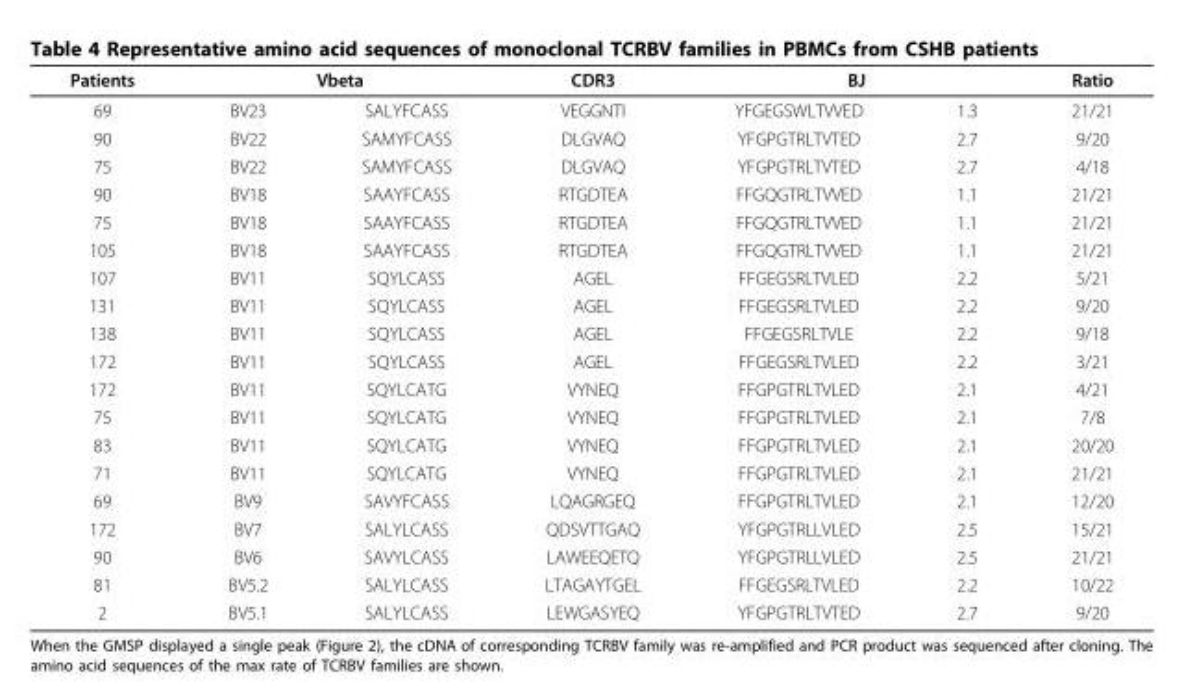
<table><thead><tr><td rowspan="2">Patients 69</td><td colspan="2">Vbeta</td><td rowspan="2">CDR3 VEGGNTI</td><td colspan="2">BJ</td><td rowspan="2">Ratio 21/21</td></tr><tr><td>BV23</td><td>SALYFCASS</td><td>YFGEGSWLTVVED</td><td>1.3</td></tr></thead><tbody><tr><td>90</td><td>BV22</td><td>SAMYFCASS</td><td>DLGVAQ</td><td>YFGPGTRLTVTED</td><td>2.7</td><td>9/20</td></tr><tr><td>75</td><td>BV22</td><td>SAMYFCASS</td><td>DLGVAQ</td><td>YFGPGTRLTVTED</td><td>2.7</td><td>4/18</td></tr><tr><td>90</td><td>BV18</td><td>SAAYFCASS</td><td>RTGDTEA</td><td>FFGQGTRLTVVED</td><td>1.1</td><td>21/21</td></tr><tr><td>75</td><td>BV18</td><td>SAAYFCASS</td><td>RTGDTEA</td><td>FFGQGTRLTVVED</td><td>1.1</td><td>21/21</td></tr><tr><td>105</td><td>BV18</td><td>SAAYFCASS</td><td>RTGDTEA</td><td>FFGQGTRLTVVED</td><td>1.1</td><td>21/21</td></tr><tr><td>107</td><td>BV11</td><td>SQYLCASS</td><td>AGEL</td><td>FFGEGSRLTVLED</td><td>2.2</td><td>5/21</td></tr><tr><td>131</td><td>BV11</td><td>SQYLCASS</td><td>AGEL</td><td>FFGEGSRLTVLED</td><td>2.2</td><td>9/20</td></tr><tr><td>138</td><td>BV11</td><td>SQYLCASS</td><td>AGEL</td><td>FFGEGSRLTVLE</td><td>2.2</td><td>9/18</td></tr><tr><td>172</td><td>BV11</td><td>SQYLCASS</td><td>AGEL</td><td>FFGEGSRLTVLED</td><td>2.2</td><td>3/21</td></tr><tr><td>172</td><td>BV11</td><td>SQYLCATG</td><td>VYNEQ</td><td>FFGPGTRLTVLED</td><td>2.1</td><td>4/21</td></tr><tr><td>75</td><td>BV11</td><td>SQYLCATG</td><td>VYNEQ</td><td>FFGPGTRLTVLED</td><td>2.1</td><td>7/8</td></tr><tr><td>83</td><td>BV11</td><td>SQYLCATG</td><td>VYNEQ</td><td>FFGPGTRLTVLED</td><td>2.1</td><td>20/20</td></tr><tr><td>71</td><td>BV11</td><td>SQYLCATG</td><td>VYNEQ</td><td>FFGPGTRLTVLED</td><td>2.1</td><td>21/21</td></tr><tr><td>69</td><td>BV9</td><td>SAVYFCASS</td><td>LQAGRGEQ</td><td>FFGPGTRLTVLED</td><td>2.1</td><td>12/20</td></tr><tr><td>172</td><td>BV7</td><td>SALYLCASS</td><td>QDSVTTGAQ</td><td>YFGPGTRLLVLED</td><td>2.5</td><td>15/21</td></tr><tr><td>90</td><td>BV6</td><td>SAVYLCASS</td><td>LAWEEQETQ</td><td>YFGPGTRLLVLED</td><td>2.5</td><td>21/21</td></tr><tr><td>81</td><td>BV5.2</td><td>SALYLCASS</td><td>LTAGAYTGEL</td><td>FFGEGSRLTVLED</td><td>2.2</td><td>10/22</td></tr><tr><td>2</td><td>BV5.1</td><td>SALYLCASS</td><td>LEWGASYEQ</td><td>YFGPGTRLTVTED</td><td>2.7</td><td>9/20</td></tr></tbody></table>